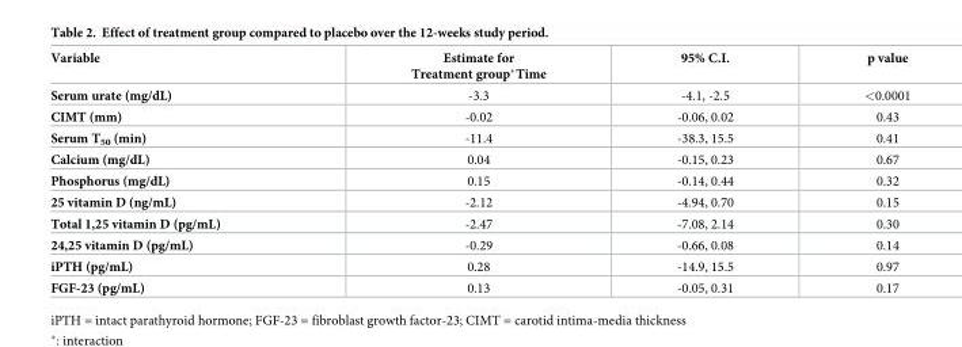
<table><thead><tr><td>Variable</td><td>Estimate for Treatment group*Time</td><td>95% C.I.</td><td>p value</td></tr></thead><tbody><tr><td>Serum urate (mg/dL)</td><td>-3.3</td><td>-4.1, -2.5</td><td>&lt;0.0001</td></tr><tr><td>CIMT (mm)</td><td>-0.02</td><td>-0.06, 0.02</td><td>0.43</td></tr><tr><td>Serum T<sub>50</sub> (min)</td><td>-11.4</td><td>-38.3, 15.5</td><td>0.41</td></tr><tr><td>Calcium (mg/dL)</td><td>0.04</td><td>-0.15, 0.23</td><td>0.67</td></tr><tr><td>Phosphorus (mg/dL)</td><td>0.15</td><td>-0.14, 0.44</td><td>0.32</td></tr><tr><td>25 vitamin D (ng/mL)</td><td>-2.12</td><td>-4.94, 0.70</td><td>0.15</td></tr><tr><td>Total 1,25 vitamin D (pg/mL)</td><td>-2.47</td><td>-7.08, 2.14</td><td>0.30</td></tr><tr><td>24,25 vitamin D (pg/mL)</td><td>-0.29</td><td>-0.66, 0.08</td><td>0.14</td></tr><tr><td>iPTH (pg/mL)</td><td>0.28</td><td>-14.9, 15.5</td><td>0.97</td></tr><tr><td>FGF-23 (pg/mL)</td><td>0.13</td><td>-0.05, 0.31</td><td>0.17</td></tr></tbody></table>